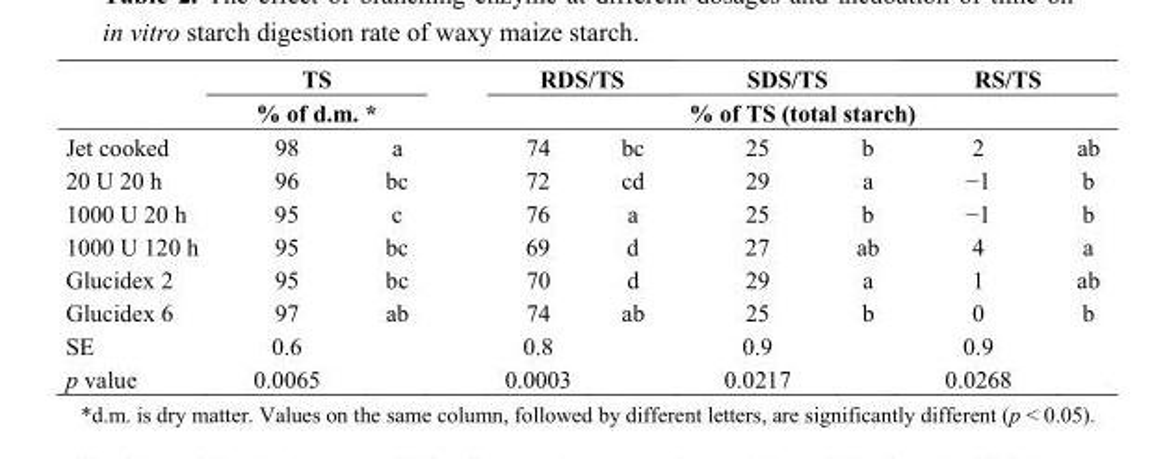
<table><thead><tr><td rowspan="3">Jet cooked</td><td rowspan="2" colspan="2">TS % of d.m. *</td><td colspan="2">RDS/TS</td><td colspan="2">SDS/TS</td><td colspan="2">RS/TS</td></tr><tr><td colspan="6">% of TS (total starch)</td></tr><tr><td>98</td><td>a</td><td>74</td><td>bc</td><td>25</td><td>b</td><td>2</td><td>ab</td></tr></thead><tbody><tr><td>20 U 20 h</td><td>96</td><td>bc</td><td>72</td><td>cd</td><td>29</td><td>a</td><td>−1</td><td>b</td></tr><tr><td>1000 U 20 h</td><td>95</td><td>c</td><td>76</td><td>a</td><td>25</td><td>b</td><td>−1</td><td>b</td></tr><tr><td>1000 U 120 h</td><td>95</td><td>bc</td><td>69</td><td>d</td><td>27</td><td>ab</td><td>4</td><td>a</td></tr><tr><td>Glucidex 2</td><td>95</td><td>bc</td><td>70</td><td>d</td><td>29</td><td>a</td><td>1</td><td>ab</td></tr><tr><td>Glucidex 6</td><td>97</td><td>ab</td><td>74</td><td>ab</td><td>25</td><td>b</td><td>0</td><td>b</td></tr><tr><td>SE</td><td>0.6</td><td></td><td>0.8</td><td></td><td>0.9</td><td></td><td>0.9</td><td></td></tr><tr><td>p value</td><td>0.0065</td><td></td><td>0.0003</td><td></td><td>0.0217</td><td></td><td>0.0268</td><td></td></tr></tbody></table>